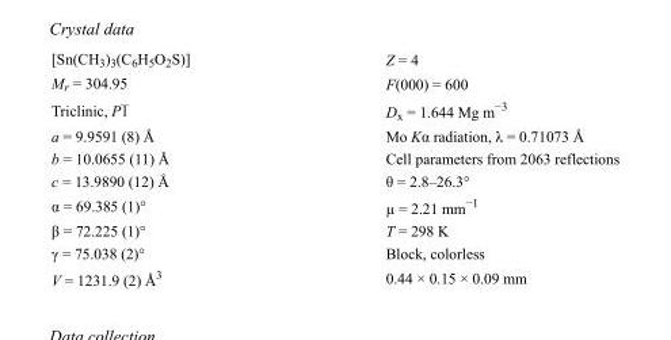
<table><tbody><tr><td>[Sn(CH<sub>3</sub>)<sub>3</sub>(C<sub>6</sub>H<sub>5</sub>O<sub>2</sub>S)]</td><td>Z = 4</td></tr><tr><td>M<sub>r</sub> = 304.95</td><td>F(000) = 600</td></tr><tr><td>Triclinic, P1</td><td>D<sub>x</sub> = 1.644 Mg m<sup>−3</sup></td></tr><tr><td>a = 9.9591 (8) Å</td><td>Mo Kα radiation, λ = 0.71073 Å</td></tr><tr><td>b = 10.0655 (11) Å</td><td>Cell parameters from 2063 reflections</td></tr><tr><td>c = 13.9890 (12) Å</td><td>θ = 2.8–26.3°</td></tr><tr><td>α = 69.385 (1)°</td><td>µ = 2.21 mm<sup>−1</sup></td></tr><tr><td>β = 72.225 (1)°</td><td>T = 298 K</td></tr><tr><td>γ = 75.038 (2)°</td><td>Block, colorless</td></tr><tr><td>V = 1231.9 (2) Å<sup>3</sup></td><td>0.44 × 0.15 × 0.09 mm</td></tr></tbody></table>